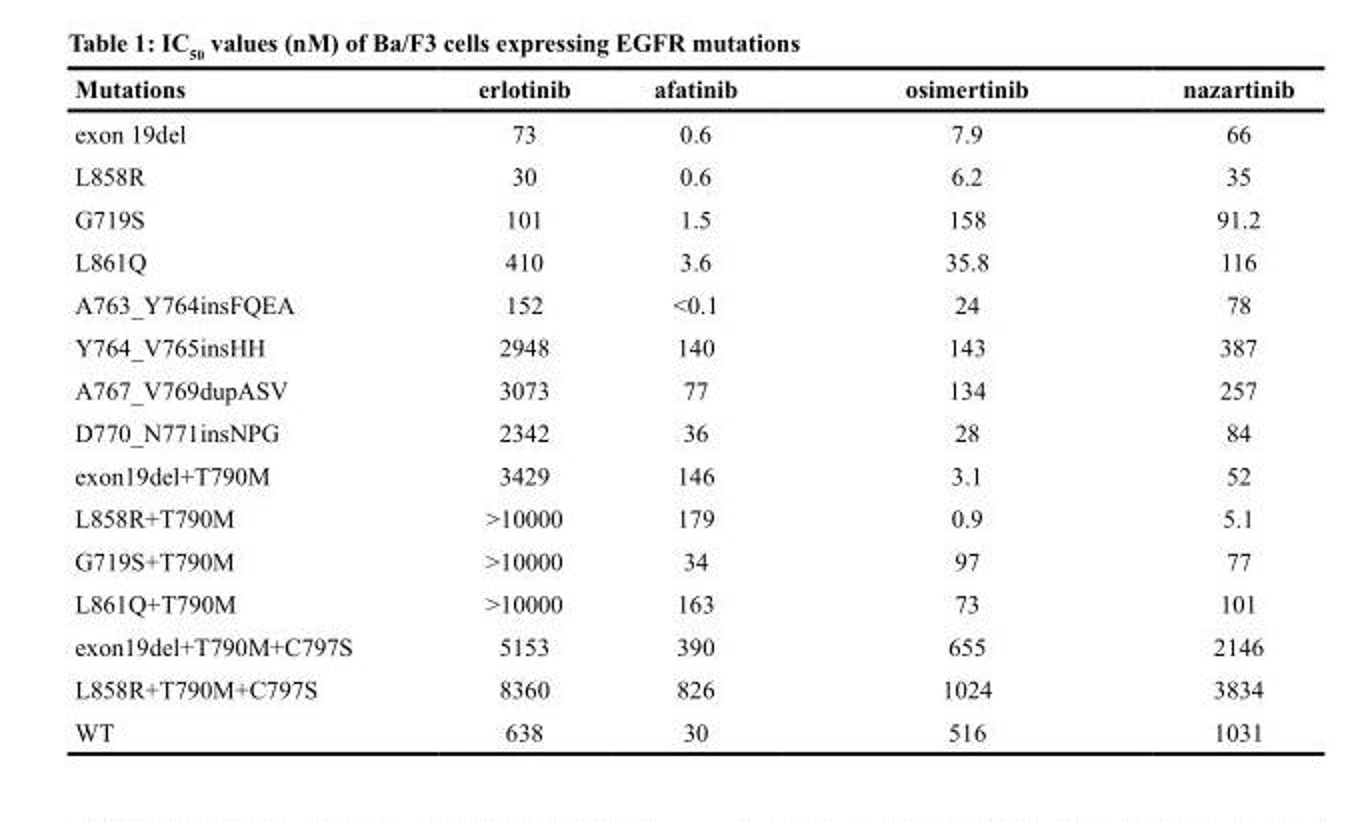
<table><thead><tr><td>Mutations</td><td>erlotinib</td><td>afatinib</td><td>osimertinib</td><td>nazartinib</td></tr></thead><tbody><tr><td>exon 19del</td><td>73</td><td>0.6</td><td>7.9</td><td>66</td></tr><tr><td>L858R</td><td>30</td><td>0.6</td><td>6.2</td><td>35</td></tr><tr><td>G719S</td><td>101</td><td>1.5</td><td>158</td><td>91.2</td></tr><tr><td>L861Q</td><td>410</td><td>3.6</td><td>35.8</td><td>116</td></tr><tr><td>A763_Y764insFQEA</td><td>152</td><td>&lt;0.1</td><td>24</td><td>78</td></tr><tr><td>Y764_V765insHH</td><td>2948</td><td>140</td><td>143</td><td>387</td></tr><tr><td>A767_V769dupASV</td><td>3073</td><td>77</td><td>134</td><td>257</td></tr><tr><td>D770_N771insNPG</td><td>2342</td><td>36</td><td>28</td><td>84</td></tr><tr><td>exon19del+T790M</td><td>3429</td><td>146</td><td>3.1</td><td>52</td></tr><tr><td>L858R+T790M</td><td>&gt;10000</td><td>179</td><td>0.9</td><td>5.1</td></tr><tr><td>G719S+T790M</td><td>&gt;10000</td><td>34</td><td>97</td><td>77</td></tr><tr><td>L861Q+T790M</td><td>&gt;10000</td><td>163</td><td>73</td><td>101</td></tr><tr><td>exon19del+T790M+C797S</td><td>5153</td><td>390</td><td>655</td><td>2146</td></tr><tr><td>L858R+T790M+C797S</td><td>8360</td><td>826</td><td>1024</td><td>3834</td></tr><tr><td>WT</td><td>638</td><td>30</td><td>516</td><td>1031</td></tr></tbody></table>